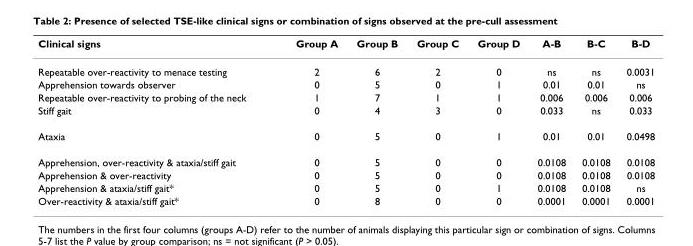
<table><thead><tr><td>Clinical signs</td><td>Group A</td><td>Group B</td><td>Group C</td><td>Group D</td><td>A-B</td><td>B-C</td><td>B-D</td></tr></thead><tbody><tr><td>Repeatable over-reactivity to menace testing</td><td>2</td><td>6</td><td>2</td><td>0</td><td>ns</td><td>ns</td><td>0.0031</td></tr><tr><td>Apprehension towards observer</td><td>0</td><td>5</td><td>0</td><td>1</td><td>0.01</td><td>0.01</td><td>ns</td></tr><tr><td>Repeatable over-reactivity to probing of the neck</td><td>1</td><td>7</td><td>1</td><td>1</td><td>0.006</td><td>0.006</td><td>0.006</td></tr><tr><td>Stiff gait</td><td>0</td><td>4</td><td>3</td><td>0</td><td>0.033</td><td>ns</td><td>0.033</td></tr><tr><td>Ataxia</td><td>0</td><td>5</td><td>0</td><td>1</td><td>0.01</td><td>0.01</td><td>0.0498</td></tr><tr><td>Apprehension, over-reactivity &amp; ataxia/stiff gait</td><td>0</td><td>5</td><td>0</td><td>0</td><td>0.0108</td><td>0.0108</td><td>0.0108</td></tr><tr><td>Apprehension &amp; over-reactivity</td><td>0</td><td>5</td><td>0</td><td>0</td><td>0.0108</td><td>0.0108</td><td>0.0108</td></tr><tr><td>Apprehension &amp; ataxia/stiff gait*</td><td>0</td><td>5</td><td>0</td><td>1</td><td>0.0108</td><td>0.0108</td><td>ns</td></tr><tr><td>Over-reactivity &amp; ataxia/stiff gait*</td><td>0</td><td>8</td><td>0</td><td>0</td><td>0.0001</td><td>0.0001</td><td>0.0001</td></tr></tbody></table>